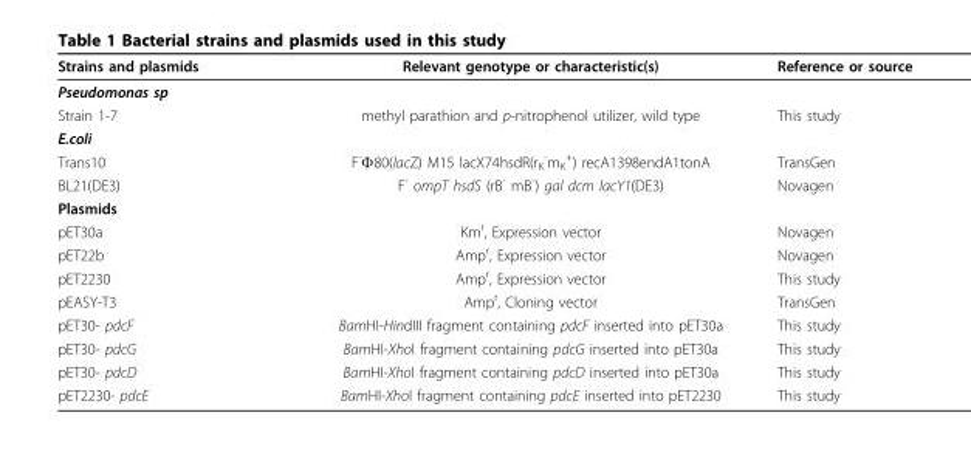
<table><thead><tr><td>Strains and plasmids</td><td>Relevant genotype or characteristic(s)</td><td>Reference or source</td></tr></thead><tbody><tr><td colspan="3">Pseudomonas sp</td></tr><tr><td>Strain 1-7</td><td>methyl parathion and p-nitrophenol utilizer, wild type</td><td>This study</td></tr><tr><td colspan="3">E.coli</td></tr><tr><td>Trans10</td><td>F<sup>-</sup>Φ80(lacZ) M15 lacX74hsdR(r<sub>K</sub> <sup>-</sup>m<sub>K</sub> <sup>+</sup>) recA1398endA1tonA</td><td>TransGen</td></tr><tr><td>BL21(DE3)</td><td>F<sup>-</sup> ompT hsdS (rB<sup>-</sup> mB<sup>-</sup>) gal dcm lacY1(DE3)</td><td>Novagen</td></tr><tr><td colspan="3">Plasmids</td></tr><tr><td>pET30a</td><td>Km<sup>r</sup>, Expression vector</td><td>Novagen</td></tr><tr><td>pET22b</td><td>Amp<sup>r</sup>, Expression vector</td><td>Novagen</td></tr><tr><td>pET2230</td><td>Amp<sup>r</sup>, Expression vector</td><td>This study</td></tr><tr><td>pEASY-T3</td><td>Amp<sup>r</sup>, Cloning vector</td><td>TransGen</td></tr><tr><td>pET30- pdcF</td><td>BamHI-HindIII fragment containing pdcF inserted into pET30a</td><td>This study</td></tr><tr><td>pET30- pdcG</td><td>BamHI-XhoI fragment containing pdcG inserted into pET30a</td><td>This study</td></tr><tr><td>pET30- pdcD</td><td>BamHI-XhoI fragment containing pdcD inserted into pET30a</td><td>This study</td></tr><tr><td>pET2230- pdcE</td><td>BamHI-XhoI fragment containing pdcE inserted into pET2230</td><td>This study</td></tr></tbody></table>